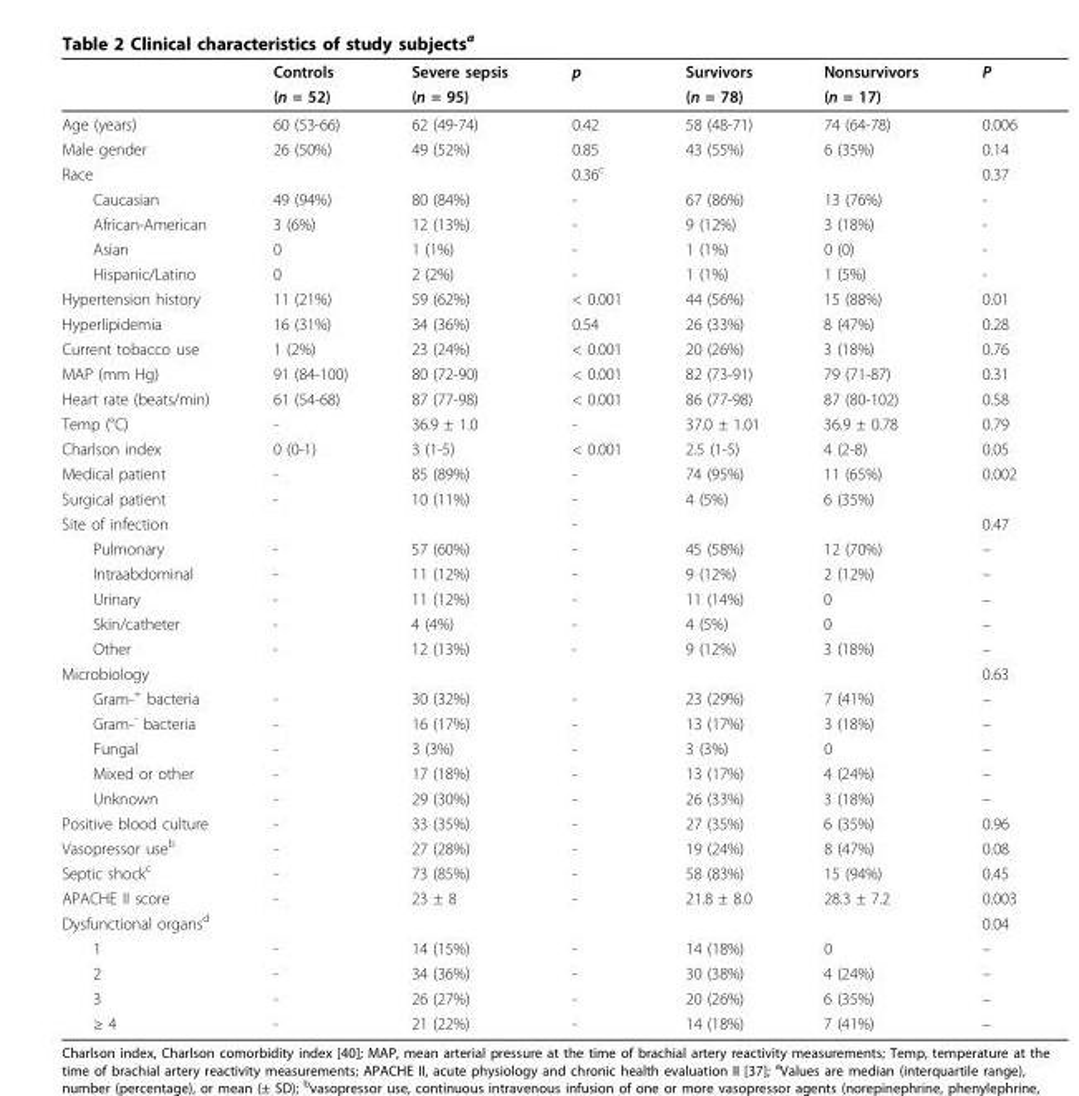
<table><thead><tr><td rowspan="2"></td><td rowspan="2">Controls (n = 52)</td><td rowspan="2">Severe sepsis (n = 95)</td><td rowspan="2">p</td><td rowspan="2">Survivors (n = 78)</td><td rowspan="2">Nonsurvivors (n = 17)</td><td rowspan="2">P</td></tr><tr></tr></thead><tbody><tr><td>Age (years)</td><td>60 (53-66)</td><td>62 (49-74)</td><td>0.42</td><td>58 (48-71)</td><td>74 (64-78)</td><td>0.006</td></tr><tr><td>Male gender</td><td>26 (50%)</td><td>49 (52%)</td><td>0.85</td><td>43 (55%)</td><td>6 (35%)</td><td>0.14</td></tr><tr><td>Race</td><td></td><td></td><td>0.36<sup>c</sup></td><td></td><td></td><td>0.37</td></tr><tr><td>Caucasian</td><td>49 (94%)</td><td>80 (84%)</td><td>-</td><td>67 (86%)</td><td>13 (76%)</td><td>-</td></tr><tr><td>African-American</td><td>3 (6%)</td><td>12 (13%)</td><td>-</td><td>9 (12%)</td><td>3 (18%)</td><td>-</td></tr><tr><td>Asian</td><td>0</td><td>1 (1%)</td><td>-</td><td>1 (1%)</td><td>0 (0)</td><td>-</td></tr><tr><td>Hispanic/Latino</td><td>0</td><td>2 (2%)</td><td>-</td><td>1 (1%)</td><td>1 (5%)</td><td>-</td></tr><tr><td>Hypertension history</td><td>11 (21%)</td><td>59 (62%)</td><td>&lt; 0.001</td><td>44 (56%)</td><td>15 (88%)</td><td>0.01</td></tr><tr><td>Hyperlipidemia</td><td>16 (31%)</td><td>34 (36%)</td><td>0.54</td><td>26 (33%)</td><td>8 (47%)</td><td>0.28</td></tr><tr><td>Current tobacco use</td><td>1 (2%)</td><td>23 (24%)</td><td>&lt; 0.001</td><td>20 (26%)</td><td>3 (18%)</td><td>0.76</td></tr><tr><td>MAP (mm Hg)</td><td>91 (84-100)</td><td>80 (72-90)</td><td>&lt; 0.001</td><td>82 (73-91)</td><td>79 (71-87)</td><td>0.31</td></tr><tr><td>Heart rate (beats/min)</td><td>61 (54-68)</td><td>87 (77-98)</td><td>&lt; 0.001</td><td>86 (77-98)</td><td>87 (80-102)</td><td>0.58</td></tr><tr><td>Temp (°C)</td><td>-</td><td>36.9 ± 1.0</td><td>-</td><td>37.0 ± 1.01</td><td>36.9 ± 0.78</td><td>0.79</td></tr><tr><td>Charlson index</td><td>0 (0-1)</td><td>3 (1-5)</td><td>&lt; 0.001</td><td>2.5 (1-5)</td><td>4 (2-8)</td><td>0.05</td></tr><tr><td>Medical patient</td><td>-</td><td>85 (89%)</td><td>-</td><td>74 (95%)</td><td>11 (65%)</td><td>0.002</td></tr><tr><td>Surgical patient</td><td>-</td><td>10 (11%)</td><td>-</td><td>4 (5%)</td><td>6 (35%)</td><td></td></tr><tr><td>Site of infection</td><td></td><td></td><td>-</td><td></td><td></td><td>0.47</td></tr><tr><td>Pulmonary</td><td>-</td><td>57 (60%)</td><td>-</td><td>45 (58%)</td><td>12 (70%)</td><td>–</td></tr><tr><td>Intraabdominal</td><td>-</td><td>11 (12%)</td><td>-</td><td>9 (12%)</td><td>2 (12%)</td><td>–</td></tr><tr><td>Urinary</td><td>-</td><td>11 (12%)</td><td>-</td><td>11 (14%)</td><td>0</td><td>–</td></tr><tr><td>Skin/catheter</td><td>-</td><td>4 (4%)</td><td>-</td><td>4 (5%)</td><td>0</td><td>–</td></tr><tr><td>Other</td><td>-</td><td>12 (13%)</td><td>-</td><td>9 (12%)</td><td>3 (18%)</td><td>–</td></tr><tr><td>Microbiology</td><td></td><td></td><td></td><td></td><td></td><td>0.63</td></tr><tr><td>Gram-<sup>+</sup> bacteria</td><td>-</td><td>30 (32%)</td><td>-</td><td>23 (29%)</td><td>7 (41%)</td><td>–</td></tr><tr><td>Gram-<sup>-</sup> bacteria</td><td>-</td><td>16 (17%)</td><td>-</td><td>13 (17%)</td><td>3 (18%)</td><td>–</td></tr><tr><td>Fungal</td><td>-</td><td>3 (3%)</td><td>-</td><td>3 (3%)</td><td>0</td><td>–</td></tr><tr><td>Mixed or other</td><td>-</td><td>17 (18%)</td><td>-</td><td>13 (17%)</td><td>4 (24%)</td><td>–</td></tr><tr><td>Unknown</td><td>-</td><td>29 (30%)</td><td>-</td><td>26 (33%)</td><td>3 (18%)</td><td>–</td></tr><tr><td>Positive blood culture</td><td>-</td><td>33 (35%)</td><td>-</td><td>27 (35%)</td><td>6 (35%)</td><td>0.96</td></tr><tr><td>Vasopressor use<sup>b</sup></td><td>-</td><td>27 (28%)</td><td>-</td><td>19 (24%)</td><td>8 (47%)</td><td>0.08</td></tr><tr><td>Septic shock<sup>c</sup></td><td>-</td><td>73 (85%)</td><td>-</td><td>58 (83%)</td><td>15 (94%)</td><td>0.45</td></tr><tr><td>APACHE II score</td><td>-</td><td>23 ± 8</td><td>-</td><td>21.8 ± 8.0</td><td>28.3 ± 7.2</td><td>0.003</td></tr><tr><td>Dysfunctional organs<sup>d</sup></td><td></td><td></td><td></td><td></td><td></td><td>0.04</td></tr><tr><td>1</td><td>-</td><td>14 (15%)</td><td>-</td><td>14 (18%)</td><td>0</td><td>–</td></tr><tr><td>2</td><td>-</td><td>34 (36%)</td><td>-</td><td>30 (38%)</td><td>4 (24%)</td><td>–</td></tr><tr><td>3</td><td>-</td><td>26 (27%)</td><td>-</td><td>20 (26%)</td><td>6 (35%)</td><td>–</td></tr><tr><td>≥ 4</td><td>-</td><td>21 (22%)</td><td>-</td><td>14 (18%)</td><td>7 (41%)</td><td>–</td></tr></tbody></table>